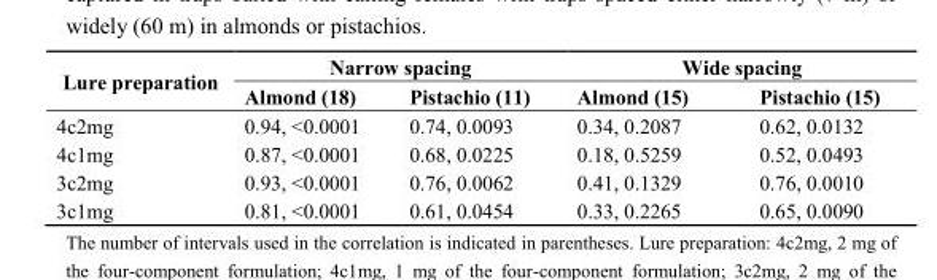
<table><thead><tr><td rowspan="2">Lure preparation</td><td colspan="2">Narrow spacing</td><td colspan="2">Wide spacing</td></tr><tr><td>Almond (18)</td><td>Pistachio (11)</td><td>Almond (15)</td><td>Pistachio (15)</td></tr></thead><tbody><tr><td>4c2mg</td><td>0.94, &lt;0.0001</td><td>0.74, 0.0093</td><td>0.34, 0.2087</td><td>0.62, 0.0132</td></tr><tr><td>4c1mg</td><td>0.87, &lt;0.0001</td><td>0.68, 0.0225</td><td>0.18, 0.5259</td><td>0.52, 0.0493</td></tr><tr><td>3c2mg</td><td>0.93, &lt;0.0001</td><td>0.76, 0.0062</td><td>0.41, 0.1329</td><td>0.76, 0.0010</td></tr><tr><td>3c1mg</td><td>0.81, &lt;0.0001</td><td>0.61, 0.0454</td><td>0.33, 0.2265</td><td>0.65, 0.0090</td></tr></tbody></table>